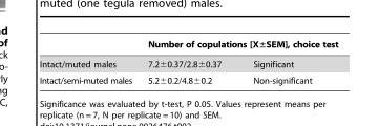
<table><thead><tr><td rowspan="2">Intact/muted males</td><td colspan="2">Number of copulations [X±SEM], choice test</td></tr><tr><td>7.2±0.37/2.8±0.37</td><td>Significant</td></tr></thead><tbody><tr><td>Intact/semi-muted males</td><td>5.2±0.2/4.8±0.2</td><td>Non-significant</td></tr></tbody></table>